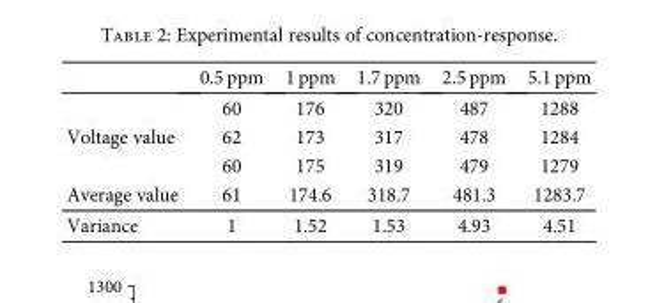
<table><thead><tr><td></td><td>0.5 ppm</td><td>1 ppm</td><td>1.7 ppm</td><td>2.5 ppm</td><td>5.1 ppm</td></tr></thead><tbody><tr><td></td><td>60</td><td>176</td><td>320</td><td>487</td><td>1288</td></tr><tr><td rowspan="2">Voltage value</td><td>62</td><td>173</td><td>317</td><td>478</td><td>1284</td></tr><tr><td>60</td><td>175</td><td>319</td><td>479</td><td>1279</td></tr><tr><td>Average value</td><td>61</td><td>174.6</td><td>318.7</td><td>481.3</td><td>1283.7</td></tr><tr><td>Variance</td><td>1</td><td>1.52</td><td>1.53</td><td>4.93</td><td>4.51</td></tr></tbody></table>